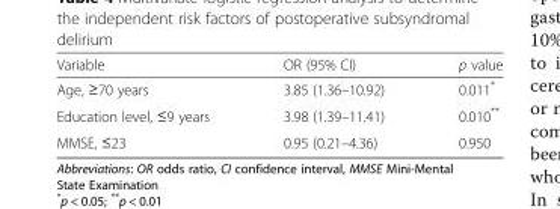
<table><thead><tr><td>Variable</td><td>OR (95% CI)</td><td>p value</td></tr></thead><tbody><tr><td>Age, ≥70 years</td><td>3.85 (1.36–10.92)</td><td>0.011*</td></tr><tr><td>Education level, ≤9 years</td><td>3.98 (1.39–11.41)</td><td>0.010**</td></tr><tr><td>MMSE, ≤23</td><td>0.95 (0.21–4.36)</td><td>0.950</td></tr></tbody></table>